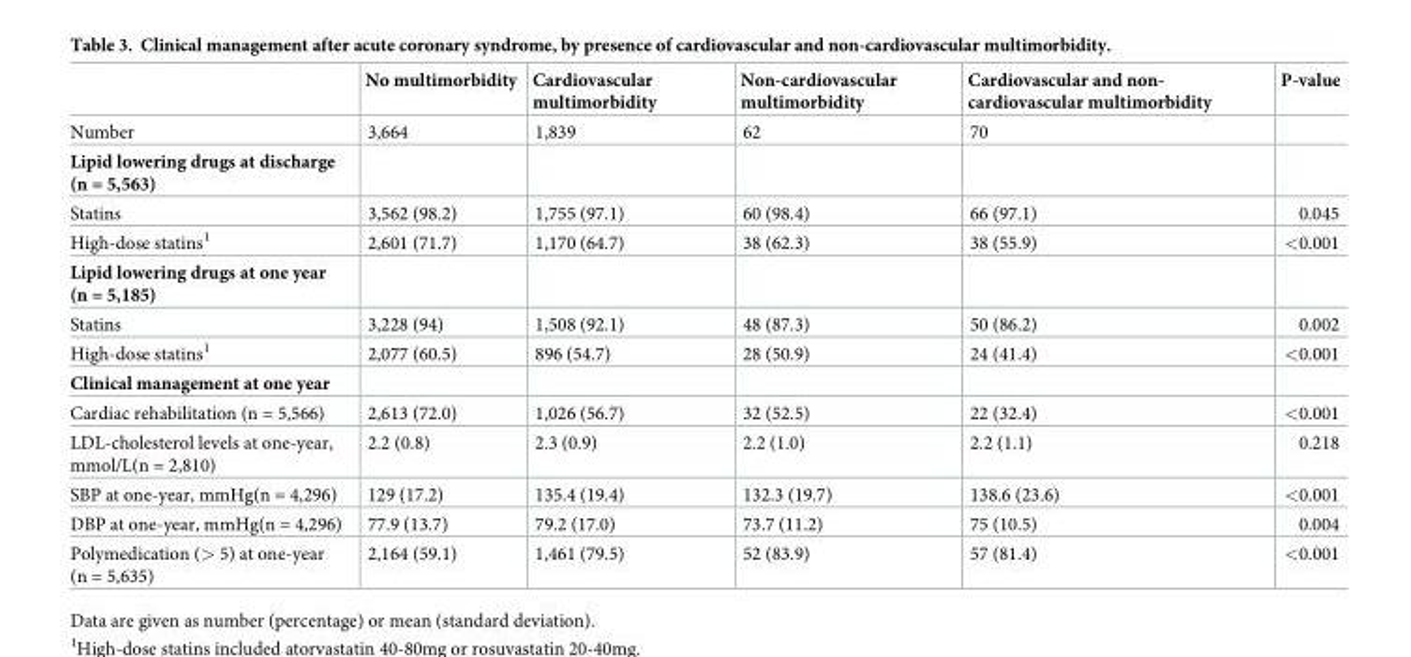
<table><thead><tr><td></td><td>No multimorbidity</td><td>Cardiovascular multimorbidity</td><td>Non-cardiovascular multimorbidity</td><td>Cardiovascular and non- cardiovascular multimorbidity</td><td>P-value</td></tr></thead><tbody><tr><td>Number</td><td>3,664</td><td>1,839</td><td>62</td><td>70</td><td></td></tr><tr><td colspan="6">Lipid lowering drugs at discharge (n = 5,563)</td></tr><tr><td>Statins</td><td>3,562 (98.2)</td><td>1,755 (97.1)</td><td>60 (98.4)</td><td>66 (97.1)</td><td>0.045</td></tr><tr><td>High-dose statins<sup>1</sup></td><td>2,601 (71.7)</td><td>1,170 (64.7)</td><td>38 (62.3)</td><td>38 (55.9)</td><td>&lt;0.001</td></tr><tr><td colspan="6">Lipid lowering drugs at one year (n = 5,185)</td></tr><tr><td>Statins</td><td>3,228 (94)</td><td>1,508 (92.1)</td><td>48 (87.3)</td><td>50 (86.2)</td><td>0.002</td></tr><tr><td>High-dose statins<sup>1</sup></td><td>2,077 (60.5)</td><td>896 (54.7)</td><td>28 (50.9)</td><td>24 (41.4)</td><td>&lt;0.001</td></tr><tr><td colspan="6">Clinical management at one year</td></tr><tr><td>Cardiac rehabilitation (n = 5,566)</td><td>2,613 (72.0)</td><td>1,026 (56.7)</td><td>32 (52.5)</td><td>22 (32.4)</td><td>&lt;0.001</td></tr><tr><td>LDL-cholesterol levels at one-year, mmol/L(n = 2,810)</td><td>2.2 (0.8)</td><td>2.3 (0.9)</td><td>2.2 (1.0)</td><td>2.2 (1.1)</td><td>0.218</td></tr><tr><td>SBP at one-year, mmHg(n = 4,296)</td><td>129 (17.2)</td><td>135.4 (19.4)</td><td>132.3 (19.7)</td><td>138.6 (23.6)</td><td>&lt;0.001</td></tr><tr><td>DBP at one-year, mmHg(n = 4,296)</td><td>77.9 (13.7)</td><td>79.2 (17.0)</td><td>73.7 (11.2)</td><td>75 (10.5)</td><td>0.004</td></tr><tr><td>Polymedication (&gt; 5) at one-year (n = 5,635)</td><td>2,164 (59.1)</td><td>1,461 (79.5)</td><td>52 (83.9)</td><td>57 (81.4)</td><td>&lt;0.001</td></tr></tbody></table>